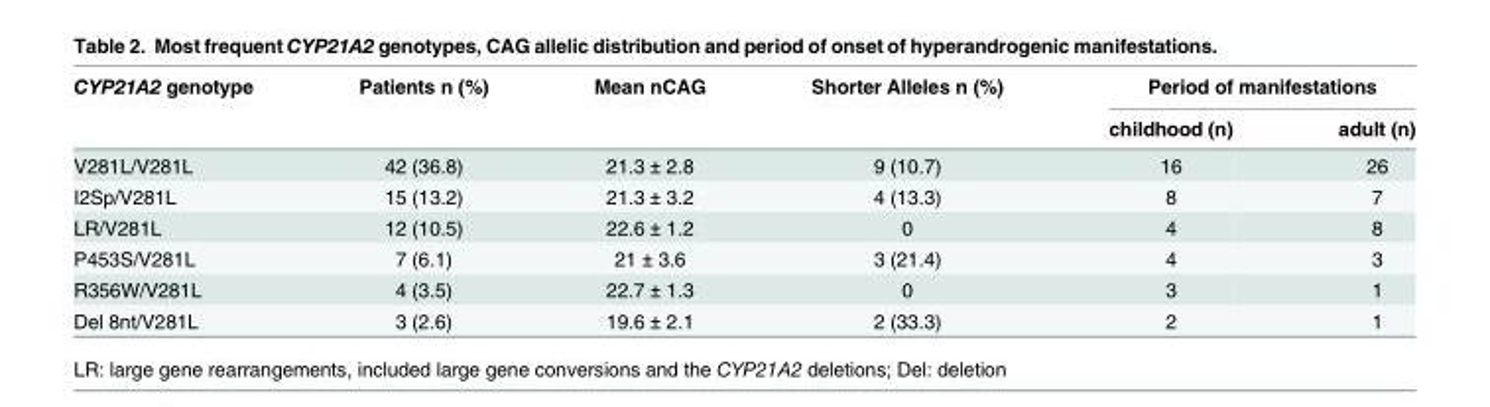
<table><thead><tr><td rowspan="2">CYP21A2 genotype</td><td rowspan="2">Patients n (%)</td><td rowspan="2">Mean nCAG</td><td rowspan="2">Shorter Alleles n (%)</td><td colspan="2">Period of manifestations</td></tr><tr><td>childhood (n)</td><td>adult (n)</td></tr></thead><tbody><tr><td>V281L/V281L</td><td>42 (36.8)</td><td>21.3 ± 2.8</td><td>9 (10.7)</td><td>16</td><td>26</td></tr><tr><td>I2Sp/V281L</td><td>15 (13.2)</td><td>21.3 ± 3.2</td><td>4 (13.3)</td><td>8</td><td>7</td></tr><tr><td>LR/V281L</td><td>12 (10.5)</td><td>22.6 ± 1.2</td><td>0</td><td>4</td><td>8</td></tr><tr><td>P453S/V281L</td><td>7 (6.1)</td><td>21 ± 3.6</td><td>3 (21.4)</td><td>4</td><td>3</td></tr><tr><td>R356W/V281L</td><td>4 (3.5)</td><td>22.7 ± 1.3</td><td>0</td><td>3</td><td>1</td></tr><tr><td>Del 8nt/V281L</td><td>3 (2.6)</td><td>19.6 ± 2.1</td><td>2 (33.3)</td><td>2</td><td>1</td></tr></tbody></table>